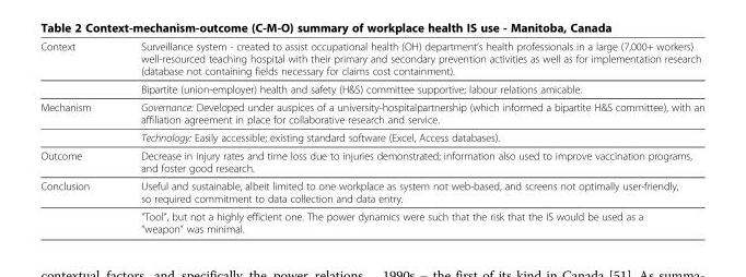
<table><thead><tr><td>Context</td><td>Surveillance system - created to assist occupational health (OH) department’s health professionals in a large (7,000+ workers) well-resourced teaching hospital with their primary and secondary prevention activities as well as for implementation research (database not containing fields necessary for claims cost containment).</td></tr></thead><tbody><tr><td></td><td>Bipartite (union-employer) health and safety (H&amp;S) committee supportive; labour relations amicable.</td></tr><tr><td rowspan="2">Mechanism</td><td>Governance: Developed under auspices of a university-hospitalpartnership (which informed a bipartite H&amp;S committee), with an affiliation agreement in place for collaborative research and service.</td></tr><tr><td>Technology: Easily accessible; existing standard software (Excel, Access databases).</td></tr><tr><td>Outcome</td><td>Decrease in injury rates and time loss due to injuries demonstrated; information also used to improve vaccination programs, and foster good research.</td></tr><tr><td rowspan="2">Conclusion</td><td>Useful and sustainable, albeit limited to one workplace as system not web-based, and screens not optimally user-friendly, so required commitment to data collection and data entry.</td></tr><tr><td>“Tool”, but not a highly efficient one. The power dynamics were such that the risk that the IS would be used as a “weapon” was minimal.</td></tr></tbody></table>